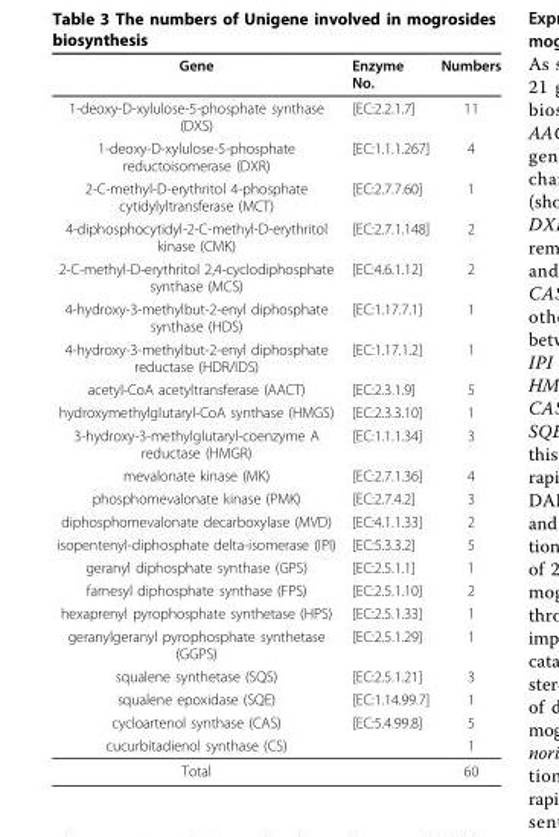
<table><thead><tr><td>Gene</td><td>Enzyme No.</td><td>Numbers</td></tr></thead><tbody><tr><td>1-deoxy-D-xylulose-5-phosphate synthase (DXS)</td><td>[EC:2.2.1.7]</td><td>11</td></tr><tr><td>1-deoxy-D-xylulose-5-phosphate reductoisomerase (DXR)</td><td>[EC:1.1.1.267]</td><td>4</td></tr><tr><td>2-C-methyl-D-erythritol 4-phosphate cytidylyltransferase (MCT)</td><td>[EC:2.7.7.60]</td><td>1</td></tr><tr><td>4-diphosphocytidyl-2-C-methyl-D-erythritol kinase (CMK)</td><td>[EC:2.7.1.148]</td><td>2</td></tr><tr><td>2-C-methyl-D-erythritol 2,4-cyclodiphosphate synthase (MCS)</td><td>[EC:4.6.1.12]</td><td>2</td></tr><tr><td>4-hydroxy-3-methylbut-2-enyl diphosphate synthase (HDS)</td><td>[EC:1.17.7.1]</td><td>1</td></tr><tr><td>4-hydroxy-3-methylbut-2-enyl diphosphate reductase (HDR/IDS)</td><td>[EC:1.17.1.2]</td><td>1</td></tr><tr><td>acetyl-CoA acetyltransferase (AACT)</td><td>[EC:2.3.1.9]</td><td>5</td></tr><tr><td>hydroxymethylglutaryl-CoA synthase (HMGS)</td><td>[EC:2.3.3.10]</td><td>1</td></tr><tr><td>3-hydroxy-3-methylglutaryl-coenzyme A reductase (HMGR)</td><td>[EC:1.1.1.34]</td><td>3</td></tr><tr><td>mevalonate kinase (MK)</td><td>[EC:2.7.1.36]</td><td>4</td></tr><tr><td>phosphomevalonate kinase (PMK)</td><td>[EC:2.7.4.2]</td><td>3</td></tr><tr><td>diphosphomevalonate decarboxylase (MVD)</td><td>[EC:4.1.1.33]</td><td>2</td></tr><tr><td>isopentenyl-diphosphate delta-isomerase (IPI)</td><td>[EC:5.3.3.2]</td><td>5</td></tr><tr><td>geranyl diphosphate synthase (GPS)</td><td>[EC:2.5.1.1]</td><td>1</td></tr><tr><td>farnesyl diphosphate synthase (FPS)</td><td>[EC:2.5.1.10]</td><td>2</td></tr><tr><td>hexaprenyl pyrophosphate synthetase (HPS)</td><td>[EC:2.5.1.33]</td><td>1</td></tr><tr><td>geranylgeranyl pyrophosphate synthetase (GGPS)</td><td>[EC:2.5.1.29]</td><td>1</td></tr><tr><td>squalene synthetase (SQS)</td><td>[EC:2.5.1.21]</td><td>3</td></tr><tr><td>squalene epoxidase (SQE)</td><td>[EC:1.14.99.7]</td><td>1</td></tr><tr><td>cycloartenol synthase (CAS)</td><td>[EC:5.4.99.8]</td><td>5</td></tr><tr><td>cucurbitadienol synthase (CS)</td><td></td><td>1</td></tr><tr><td>Total</td><td></td><td>60</td></tr></tbody></table>